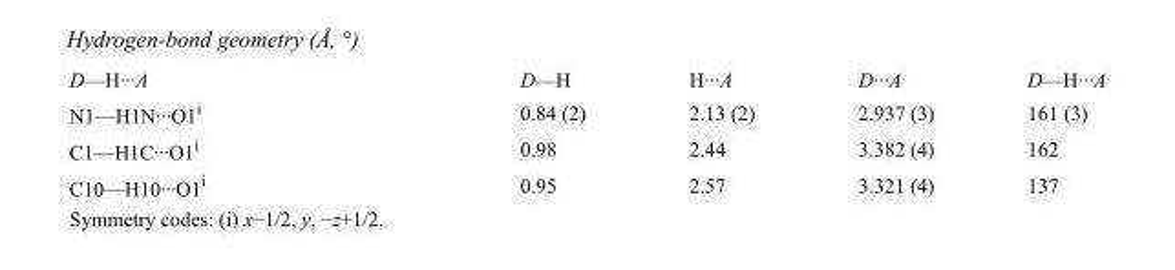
<table><tbody><tr><td>D—H···A</td><td>D—H</td><td>H···A</td><td>D···A</td><td>D—H···A</td></tr><tr><td>N1—H1N···O1<sup>i</sup></td><td>0.84 (2)</td><td>2.13 (2)</td><td>2.937 (3)</td><td>161 (3)</td></tr><tr><td>C1—H1C···O1<sup>i</sup></td><td>0.98</td><td>2.44</td><td>3.382 (4)</td><td>162</td></tr><tr><td>C10—H10···O1<sup>i</sup></td><td>0.95</td><td>2.57</td><td>3.321 (4)</td><td>137</td></tr></tbody></table>